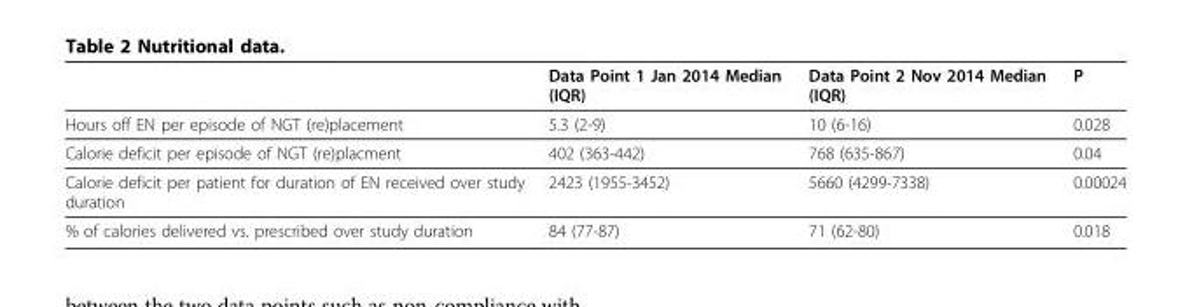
<table><thead><tr><td></td><td>Data Point 1 Jan 2014 Median (IQR)</td><td>Data Point 2 Nov 2014 Median (IQR)</td><td>P</td></tr></thead><tbody><tr><td>Hours off EN per episode of NGT (re)placement</td><td>5.3 (2-9)</td><td>10 (6-16)</td><td>0.028</td></tr><tr><td>Calorie deficit per episode of NGT (re)placment</td><td>402 (363-442)</td><td>768 (635-867)</td><td>0.04</td></tr><tr><td>Calorie deficit per patient for duration of EN received over study duration</td><td>2423 (1955-3452)</td><td>5660 (4299-7338)</td><td>0.00024</td></tr><tr><td>% of calories delivered vs. prescribed over study duration</td><td>84 (77-87)</td><td>71 (62-80)</td><td>0.018</td></tr></tbody></table>